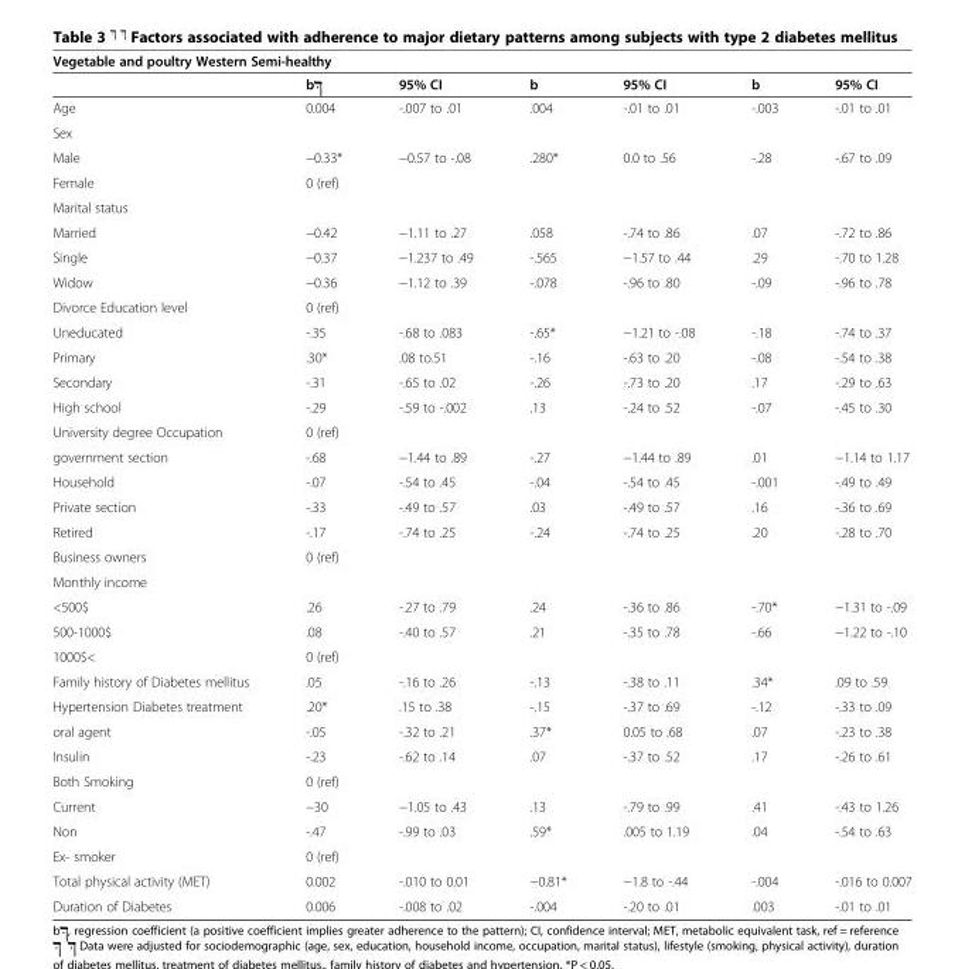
<table><thead><tr><td colspan="7">Vegetable and poultry Western Semi-healthy</td></tr><tr><td></td><td>b</td><td>95% CI</td><td>b</td><td>95% CI</td><td>b</td><td>95% CI</td></tr></thead><tbody><tr><td>Age</td><td>0.004</td><td>-.007 to .01</td><td>.004</td><td>-.01 to .01</td><td>-.003</td><td>-.01 to .01</td></tr><tr><td colspan="7">Sex</td></tr><tr><td>Male</td><td>−0.33*</td><td>−0.57 to -.08</td><td>.280*</td><td>0.0 to .56</td><td>-.28</td><td>-.67 to .09</td></tr><tr><td>Female</td><td>0 (ref)</td><td></td><td></td><td></td><td></td><td></td></tr><tr><td colspan="7">Marital status</td></tr><tr><td>Married</td><td>−0.42</td><td>−1.11 to .27</td><td>.058</td><td>-.74 to .86</td><td>.07</td><td>-.72 to .86</td></tr><tr><td>Single</td><td>−0.37</td><td>−1.237 to .49</td><td>-.565</td><td>−1.57 to .44</td><td>.29</td><td>-.70 to 1.28</td></tr><tr><td>Widow</td><td>−0.36</td><td>−1.12 to .39</td><td>-.078</td><td>-.96 to .80</td><td>-.09</td><td>-.96 to .78</td></tr><tr><td>Divorce Education level</td><td>0 (ref)</td><td></td><td></td><td></td><td></td><td></td></tr><tr><td>Uneducated</td><td>-.35</td><td>-.68 to .083</td><td>-.65*</td><td>−1.21 to -.08</td><td>-.18</td><td>-.74 to .37</td></tr><tr><td>Primary</td><td>.30*</td><td>.08 to.51</td><td>-.16</td><td>-.63 to .20</td><td>-.08</td><td>-.54 to .38</td></tr><tr><td>Secondary</td><td>-.31</td><td>-.65 to .02</td><td>-.26</td><td>-.73 to .20</td><td>.17</td><td>-.29 to .63</td></tr><tr><td>High school</td><td>-.29</td><td>-.59 to -.002</td><td>.13</td><td>-.24 to .52</td><td>-.07</td><td>-.45 to .30</td></tr><tr><td>University degree Occupation</td><td>0 (ref)</td><td></td><td></td><td></td><td colspan="2"></td></tr><tr><td>government section</td><td>-.68</td><td>−1.44 to .89</td><td>-.27</td><td>−1.44 to .89</td><td>.01</td><td>−1.14 to 1.17</td></tr><tr><td>Household</td><td>-.07</td><td>-.54 to .45</td><td>-.04</td><td>-.54 to .45</td><td>-.001</td><td>-.49 to .49</td></tr><tr><td>Private section</td><td>-.33</td><td>-.49 to .57</td><td>.03</td><td>-.49 to .57</td><td>.16</td><td>-.36 to .69</td></tr><tr><td>Retired</td><td>-.17</td><td>-.74 to .25</td><td>-.24</td><td>-.74 to .25</td><td>.20</td><td>-.28 to .70</td></tr><tr><td>Business owners</td><td>0 (ref)</td><td></td><td></td><td></td><td></td><td></td></tr><tr><td colspan="7">Monthly income</td></tr><tr><td>&lt;500$</td><td>.26</td><td>-.27 to .79</td><td>.24</td><td>-.36 to .86</td><td>-.70*</td><td>−1.31 to -.09</td></tr><tr><td>500-1000$</td><td>.08</td><td>-.40 to .57</td><td>.21</td><td>-.35 to .78</td><td>-.66</td><td>−1.22 to -.10</td></tr><tr><td>1000$&lt;</td><td>0 (ref)</td><td></td><td></td><td></td><td></td><td></td></tr><tr><td>Family history of Diabetes mellitus</td><td>.05</td><td>-.16 to .26</td><td>-.13</td><td>-.38 to .11</td><td>.34*</td><td>.09 to .59</td></tr><tr><td>Hypertension Diabetes treatment</td><td>.20*</td><td>.15 to .38</td><td>-.15</td><td>-.37 to .69</td><td>-.12</td><td>-.33 to .09</td></tr><tr><td>oral agent</td><td>-.05</td><td>-.32 to .21</td><td>.37*</td><td>0.05 to .68</td><td>.07</td><td>-.23 to .38</td></tr><tr><td>Insulin</td><td>-.23</td><td>-.62 to .14</td><td>.07</td><td>-.37 to .52</td><td>.17</td><td>-.26 to .61</td></tr><tr><td>Both Smoking</td><td>0 (ref)</td><td></td><td></td><td></td><td></td><td></td></tr><tr><td>Current</td><td>−30</td><td>−1.05 to .43</td><td>.13</td><td>-.79 to .99</td><td>.41</td><td>-.43 to 1.26</td></tr><tr><td>Non</td><td>-.47</td><td>-.99 to .03</td><td>.59*</td><td>.005 to 1.19</td><td>.04</td><td>-.54 to .63</td></tr><tr><td>Ex- smoker</td><td>0 (ref)</td><td></td><td></td><td></td><td></td><td></td></tr><tr><td>Total physical activity (MET)</td><td>0.002</td><td>-.010 to 0.01</td><td>−0.81*</td><td>−1.8 to -.44</td><td>-.004</td><td>-.016 to 0.007</td></tr><tr><td>Duration of Diabetes</td><td>0.006</td><td>-.008 to .02</td><td>-.004</td><td>-.20 to .01</td><td>.003</td><td>-.01 to .01</td></tr></tbody></table>